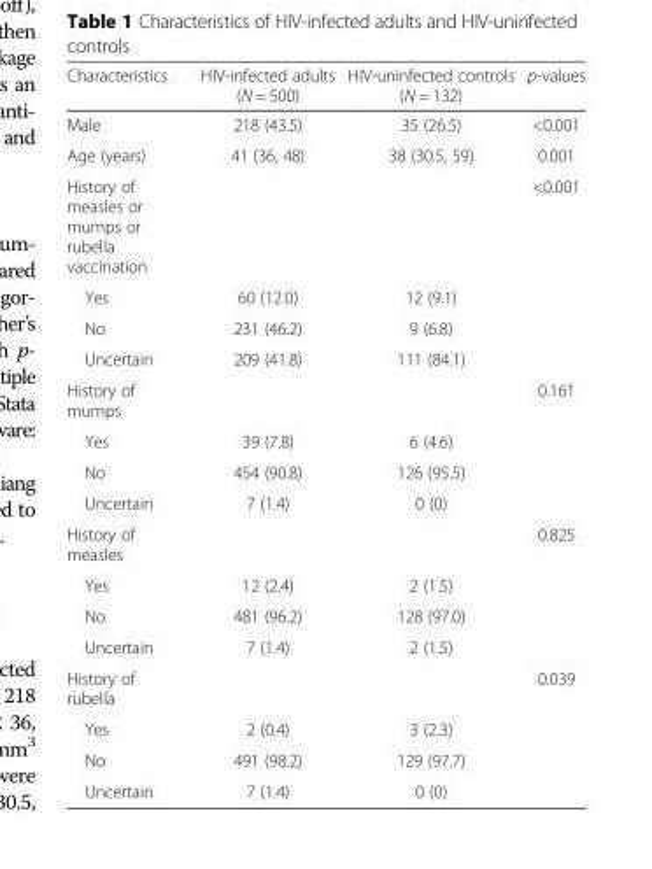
<table><thead><tr><td>Characteristics</td><td>HIV-infected adults (N = 500)</td><td>HIV-uninfected controls (N = 132)</td><td>p-values</td></tr></thead><tbody><tr><td>Male</td><td>218 (43.5)</td><td>35 (26.5)</td><td>&lt;0.001</td></tr><tr><td>Age (years)</td><td>41 (36, 48)</td><td>38 (30.5, 59)</td><td>0.001</td></tr><tr><td>History of measles or mumps or rubella vaccination</td><td></td><td></td><td>&lt;0.001</td></tr><tr><td>Yes</td><td>60 (12.0)</td><td>12 (9.1)</td><td></td></tr><tr><td>No</td><td>231 (46.2)</td><td>9 (6.8)</td><td></td></tr><tr><td>Uncertain</td><td>209 (41.8)</td><td>111 (84.1)</td><td></td></tr><tr><td>History of mumps</td><td></td><td></td><td>0.161</td></tr><tr><td>Yes</td><td>39 (7.8)</td><td>6 (4.6)</td><td></td></tr><tr><td>No</td><td>454 (90.8)</td><td>126 (95.5)</td><td></td></tr><tr><td>Uncertain</td><td>7 (1.4)</td><td>0 (0)</td><td></td></tr><tr><td>History of measles</td><td></td><td></td><td>0.825</td></tr><tr><td>Yes</td><td>12 (2.4)</td><td>2 (1.5)</td><td></td></tr><tr><td>No</td><td>481 (96.2)</td><td>128 (97.0)</td><td></td></tr><tr><td>Uncertain</td><td>7 (1.4)</td><td>2 (1.5)</td><td></td></tr><tr><td>History of rubella</td><td></td><td></td><td>0.039</td></tr><tr><td>Yes</td><td>2 (0.4)</td><td>3 (2.3)</td><td></td></tr><tr><td>No</td><td>491 (98.2)</td><td>129 (97.7)</td><td></td></tr><tr><td>Uncertain</td><td>7 (1.4)</td><td>0 (0)</td><td></td></tr></tbody></table>